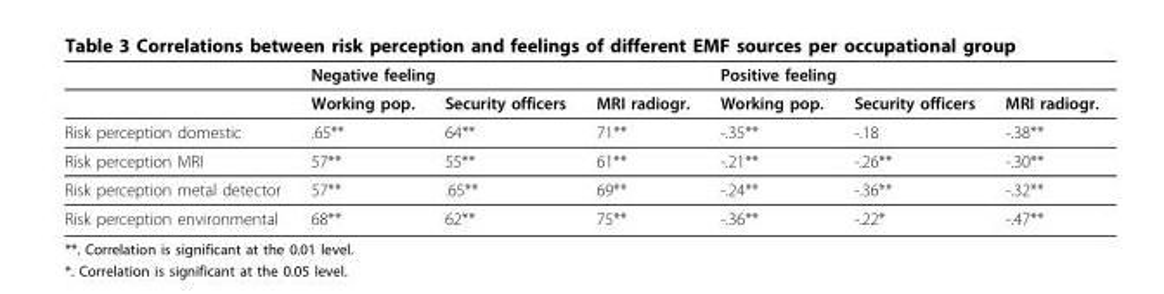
<table><thead><tr><td rowspan="2"></td><td colspan="3">Negative feeling</td><td colspan="3">Positive feeling</td></tr><tr><td>Working pop.</td><td>Security officers</td><td>MRI radiogr.</td><td>Working pop.</td><td>Security officers</td><td>MRI radiogr.</td></tr></thead><tbody><tr><td>Risk perception domestic</td><td>.65**</td><td>64**</td><td>71**</td><td>-.35**</td><td>-.18</td><td>-.38**</td></tr><tr><td>Risk perception MRI</td><td>57**</td><td>55**</td><td>61**</td><td>-.21**</td><td>-.26**</td><td>-.30**</td></tr><tr><td>Risk perception metal detector</td><td>57**</td><td>.65**</td><td>69**</td><td>-.24**</td><td>-.36**</td><td>-.32**</td></tr><tr><td>Risk perception environmental</td><td>68**</td><td>62**</td><td>75**</td><td>-.36**</td><td>-.22*</td><td>-.47**</td></tr></tbody></table>